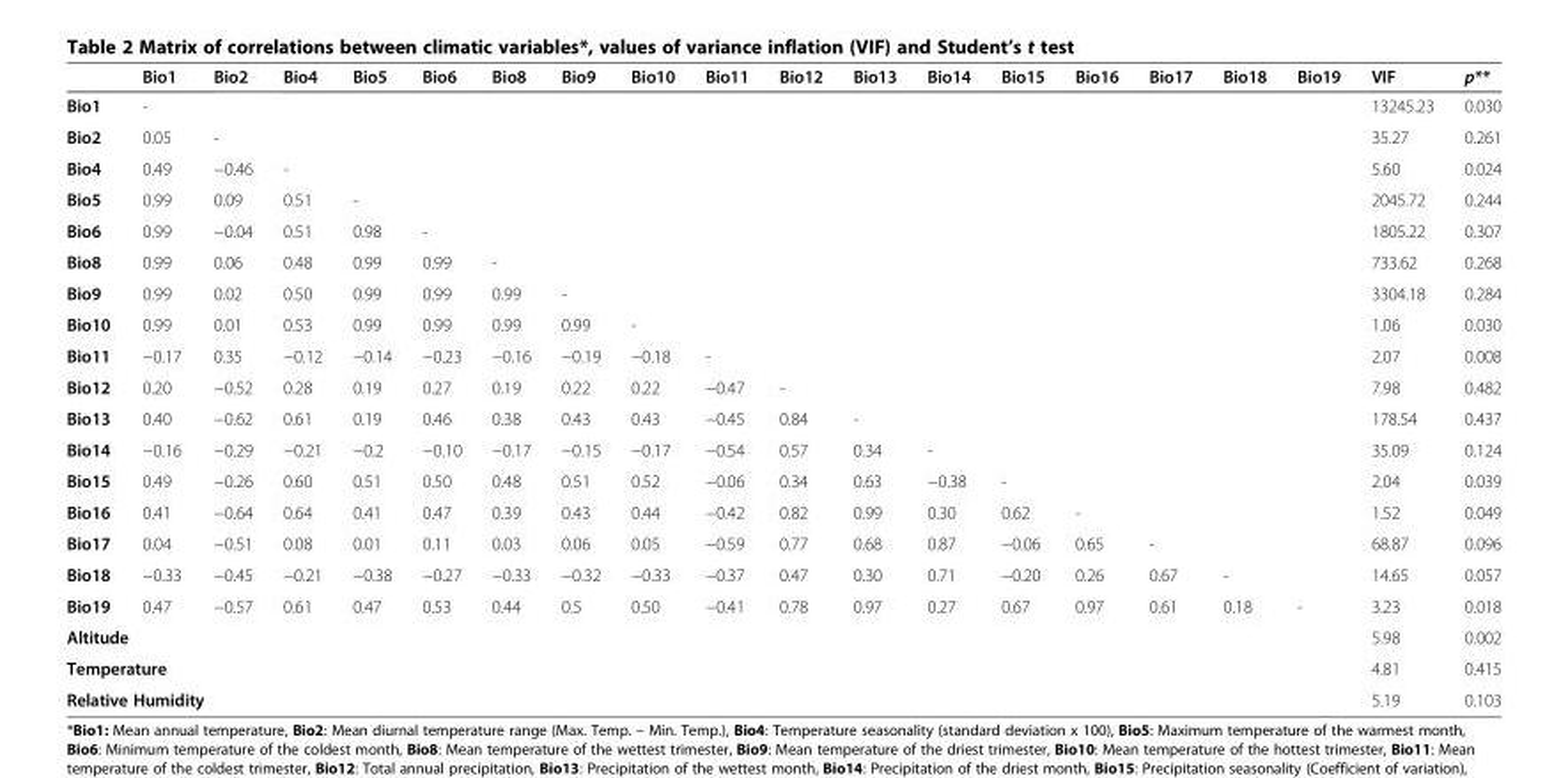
<table><thead><tr><td></td><td>Bio1</td><td>Bio2</td><td>Bio4</td><td>Bio5</td><td>Bio6</td><td>Bio8</td><td>Bio9</td><td>Bio10</td><td>Bio11</td><td>Bio12</td><td>Bio13</td><td>Bio14</td><td>Bio15</td><td>Bio16</td><td>Bio17</td><td>Bio18</td><td>Bio19</td><td>VIF</td><td>p**</td></tr></thead><tbody><tr><td>Bio1</td><td>-</td><td></td><td></td><td></td><td></td><td></td><td></td><td></td><td></td><td></td><td></td><td></td><td></td><td></td><td></td><td></td><td></td><td>13245.23</td><td>0.030</td></tr><tr><td>Bio2</td><td>0.05</td><td>-</td><td></td><td></td><td></td><td></td><td></td><td></td><td></td><td></td><td></td><td></td><td></td><td></td><td></td><td></td><td></td><td>35.27</td><td>0.261</td></tr><tr><td>Bio4</td><td>0.49</td><td>−0.46</td><td>-</td><td></td><td></td><td></td><td></td><td></td><td></td><td></td><td></td><td></td><td></td><td></td><td></td><td></td><td></td><td>5.60</td><td>0.024</td></tr><tr><td>Bio5</td><td>0.99</td><td>0.09</td><td>0.51</td><td>-</td><td></td><td></td><td></td><td></td><td></td><td></td><td></td><td></td><td></td><td></td><td></td><td></td><td></td><td>2045.72</td><td>0.244</td></tr><tr><td>Bio6</td><td>0.99</td><td>−0.04</td><td>0.51</td><td>0.98</td><td>-</td><td></td><td></td><td></td><td></td><td></td><td></td><td></td><td></td><td></td><td></td><td></td><td></td><td>1805.22</td><td>0.307</td></tr><tr><td>Bio8</td><td>0.99</td><td>0.06</td><td>0.48</td><td>0.99</td><td>0.99</td><td>-</td><td></td><td></td><td></td><td></td><td></td><td></td><td></td><td></td><td></td><td></td><td></td><td>733.62</td><td>0.268</td></tr><tr><td>Bio9</td><td>0.99</td><td>0.02</td><td>0.50</td><td>0.99</td><td>0.99</td><td>0.99</td><td>-</td><td></td><td></td><td></td><td></td><td></td><td></td><td></td><td></td><td></td><td></td><td>3304.18</td><td>0.284</td></tr><tr><td>Bio10</td><td>0.99</td><td>0.01</td><td>0.53</td><td>0.99</td><td>0.99</td><td>0.99</td><td>0.99</td><td>-</td><td></td><td></td><td></td><td></td><td></td><td></td><td></td><td></td><td></td><td>1.06</td><td>0.030</td></tr><tr><td>Bio11</td><td>−0.17</td><td>0.35</td><td>−0.12</td><td>−0.14</td><td>−0.23</td><td>−0.16</td><td>−0.19</td><td>−0.18</td><td>-</td><td></td><td></td><td></td><td></td><td></td><td></td><td></td><td></td><td>2.07</td><td>0.008</td></tr><tr><td>Bio12</td><td>0.20</td><td>−0.52</td><td>0.28</td><td>0.19</td><td>0.27</td><td>0.19</td><td>0.22</td><td>0.22</td><td>−0.47</td><td>-</td><td></td><td></td><td></td><td></td><td></td><td></td><td></td><td>7.98</td><td>0.482</td></tr><tr><td>Bio13</td><td>0.40</td><td>−0.62</td><td>0.61</td><td>0.19</td><td>0.46</td><td>0.38</td><td>0.43</td><td>0.43</td><td>−0.45</td><td>0.84</td><td>-</td><td></td><td></td><td></td><td></td><td></td><td></td><td>178.54</td><td>0.437</td></tr><tr><td>Bio14</td><td>−0.16</td><td>−0.29</td><td>−0.21</td><td>−0.2</td><td>−0.10</td><td>−0.17</td><td>−0.15</td><td>−0.17</td><td>−0.54</td><td>0.57</td><td>0.34</td><td>-</td><td></td><td></td><td></td><td></td><td></td><td>35.09</td><td>0.124</td></tr><tr><td>Bio15</td><td>0.49</td><td>−0.26</td><td>0.60</td><td>0.51</td><td>0.50</td><td>0.48</td><td>0.51</td><td>0.52</td><td>−0.06</td><td>0.34</td><td>0.63</td><td>−0.38</td><td>-</td><td></td><td></td><td></td><td></td><td>2.04</td><td>0.039</td></tr><tr><td>Bio16</td><td>0.41</td><td>−0.64</td><td>0.64</td><td>0.41</td><td>0.47</td><td>0.39</td><td>0.43</td><td>0.44</td><td>−0.42</td><td>0.82</td><td>0.99</td><td>0.30</td><td>0.62</td><td>-</td><td></td><td></td><td></td><td>1.52</td><td>0.049</td></tr><tr><td>Bio17</td><td>0.04</td><td>−0.51</td><td>0.08</td><td>0.01</td><td>0.11</td><td>0.03</td><td>0.06</td><td>0.05</td><td>−0.59</td><td>0.77</td><td>0.68</td><td>0.87</td><td>−0.06</td><td>0.65</td><td>-</td><td></td><td></td><td>68.87</td><td>0.096</td></tr><tr><td>Bio18</td><td>−0.33</td><td>−0.45</td><td>−0.21</td><td>−0.38</td><td>−0.27</td><td>−0.33</td><td>−0.32</td><td>−0.33</td><td>−0.37</td><td>0.47</td><td>0.30</td><td>0.71</td><td>−0.20</td><td>0.26</td><td>0.67</td><td>-</td><td></td><td>14.65</td><td>0.057</td></tr><tr><td>Bio19</td><td>0.47</td><td>−0.57</td><td>0.61</td><td>0.47</td><td>0.53</td><td>0.44</td><td>0.5</td><td>0.50</td><td>−0.41</td><td>0.78</td><td>0.97</td><td>0.27</td><td>0.67</td><td>0.97</td><td>0.61</td><td>0.18</td><td>-</td><td>3.23</td><td>0.018</td></tr><tr><td colspan="2">Altitude</td><td></td><td></td><td></td><td></td><td></td><td></td><td></td><td></td><td></td><td></td><td></td><td></td><td></td><td></td><td></td><td></td><td>5.98</td><td>0.002</td></tr><tr><td colspan="2">Temperature</td><td></td><td></td><td></td><td></td><td></td><td></td><td></td><td></td><td></td><td></td><td></td><td></td><td></td><td></td><td></td><td></td><td>4.81</td><td>0.415</td></tr><tr><td colspan="3">Relative Humidity</td><td></td><td></td><td></td><td></td><td></td><td></td><td></td><td></td><td></td><td></td><td></td><td></td><td></td><td></td><td></td><td>5.19</td><td>0.103</td></tr></tbody></table>